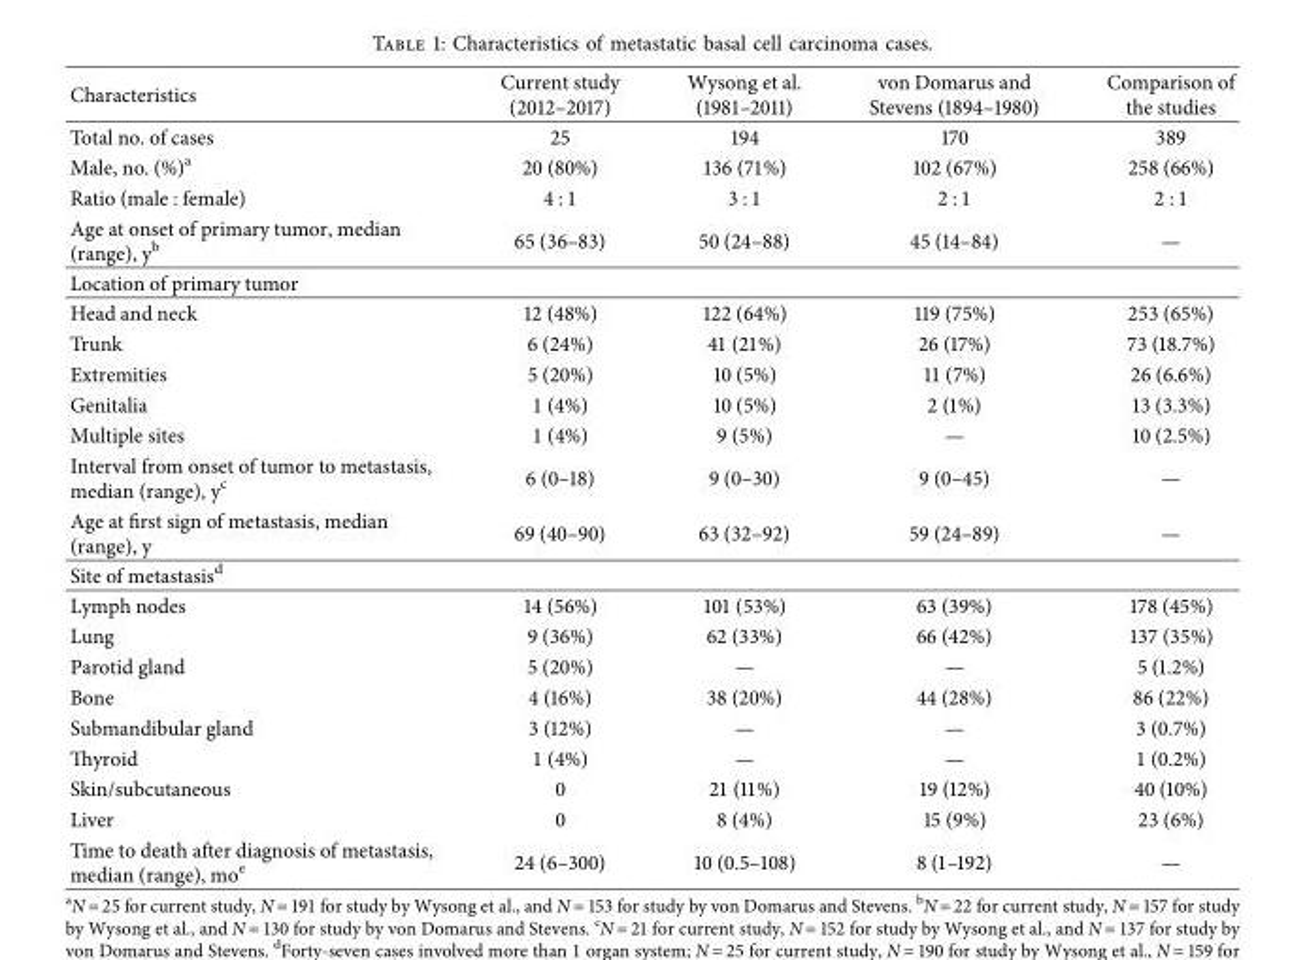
<table><thead><tr><td>Characteristics</td><td>Current study (2012–2017)</td><td>Wysong et al. (1981–2011)</td><td>von Domarus and Stevens (1894–1980)</td><td>Comparison of the studies</td></tr></thead><tbody><tr><td>Total no. of cases</td><td>25</td><td>194</td><td>170</td><td>389</td></tr><tr><td>Male, no. (%)<sup>a</sup></td><td>20 (80%)</td><td>136 (71%)</td><td>102 (67%)</td><td>258 (66%)</td></tr><tr><td>Ratio (male : female)</td><td>4 : 1</td><td>3 : 1</td><td>2 : 1</td><td>2 : 1</td></tr><tr><td>Age at onset of primary tumor, median (range), y<sup>b</sup></td><td>65 (36–83)</td><td>50 (24–88)</td><td>45 (14–84)</td><td>—</td></tr><tr><td colspan="5">Location of primary tumor</td></tr><tr><td>Head and neck</td><td>12 (48%)</td><td>122 (64%)</td><td>119 (75%)</td><td>253 (65%)</td></tr><tr><td>Trunk</td><td>6 (24%)</td><td>41 (21%)</td><td>26 (17%)</td><td>73 (18.7%)</td></tr><tr><td>Extremities</td><td>5 (20%)</td><td>10 (5%)</td><td>11 (7%)</td><td>26 (6.6%)</td></tr><tr><td>Genitalia</td><td>1 (4%)</td><td>10 (5%)</td><td>2 (1%)</td><td>13 (3.3%)</td></tr><tr><td>Multiple sites</td><td>1 (4%)</td><td>9 (5%)</td><td>—</td><td>10 (2.5%)</td></tr><tr><td>Interval from onset of tumor to metastasis, median (range), y<sup>c</sup></td><td>6 (0–18)</td><td>9 (0–30)</td><td>9 (0–45)</td><td>—</td></tr><tr><td>Age at frst sign of metastasis, median (range), y</td><td>69 (40–90)</td><td>63 (32–92)</td><td>59 (24–89)</td><td>—</td></tr><tr><td colspan="5">Site of metastasis<sup>d</sup></td></tr><tr><td>Lymph nodes</td><td>14 (56%)</td><td>101 (53%)</td><td>63 (39%)</td><td>178 (45%)</td></tr><tr><td>Lung</td><td>9 (36%)</td><td>62 (33%)</td><td>66 (42%)</td><td>137 (35%)</td></tr><tr><td>Parotid gland</td><td>5 (20%)</td><td>—</td><td>—</td><td>5 (1.2%)</td></tr><tr><td>Bone</td><td>4 (16%)</td><td>38 (20%)</td><td>44 (28%)</td><td>86 (22%)</td></tr><tr><td>Submandibular gland</td><td>3 (12%)</td><td>—</td><td>—</td><td>3 (0.7%)</td></tr><tr><td>Tyroid</td><td>1 (4%)</td><td>—</td><td>—</td><td>1 (0.2%)</td></tr><tr><td>Skin/subcutaneous</td><td>0</td><td>21 (11%)</td><td>19 (12%)</td><td>40 (10%)</td></tr><tr><td>Liver</td><td>0</td><td>8 (4%)</td><td>15 (9%)</td><td>23 (6%)</td></tr><tr><td>Time to death after diagnosis of metastasis, median (range), mo<sup>e</sup></td><td>24 (6–300)</td><td>10 (0.5–108)</td><td>8 (1–192)</td><td>—</td></tr></tbody></table>